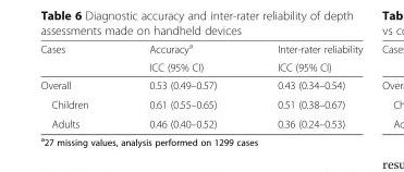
<table><thead><tr><td rowspan="2">Cases</td><td rowspan="2">Accuracy<sup>a</sup> ICC (95% CI)</td><td rowspan="2">Inter-rater reliability ICC (95% CI)</td></tr><tr></tr></thead><tbody><tr><td>Overall</td><td>0.53 (0.49–0.57)</td><td>0.43 (0.34–0.54)</td></tr><tr><td>Children</td><td>0.61 (0.55–0.65)</td><td>0.51 (0.38–0.67)</td></tr><tr><td>Adults</td><td>0.46 (0.40–0.52)</td><td>0.36 (0.24–0.53)</td></tr></tbody></table>